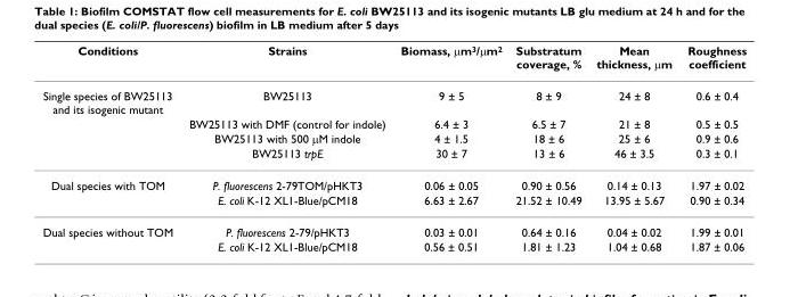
<table><thead><tr><td>Conditions</td><td>Strains</td><td>Biomass, μm<sup>3</sup>/μm<sup>2</sup></td><td>Substratum coverage, %</td><td>Mean thickness, μm</td><td>Roughness coefficient</td></tr></thead><tbody><tr><td rowspan="4">Single species of BW25113 and its isogenic mutant</td><td>BW25113</td><td>9 ± 5</td><td>8 ± 9</td><td>24 ± 8</td><td>0.6 ± 0.4</td></tr><tr><td>BW25113 with DMF (control for indole)</td><td>6.4 ± 3</td><td>6.5 ± 7</td><td>21 ± 8</td><td>0.5 ± 0.5</td></tr><tr><td>BW25113 with 500 μM indole</td><td>4 ± 1.5</td><td>18 ± 6</td><td>25 ± 6</td><td>0.9 ± 0.6</td></tr><tr><td>BW25113 trpE</td><td>30 ± 7</td><td>13 ± 6</td><td>46 ± 3.5</td><td>0.3 ± 0.1</td></tr><tr><td rowspan="2">Dual species with TOM</td><td>P. fluorescens 2-79TOM/pHKT3</td><td>0.06 ± 0.05</td><td>0.90 ± 0.56</td><td>0.14 ± 0.13</td><td>1.97 ± 0.02</td></tr><tr><td>E. coli K-12 XL1-Blue/pCM18</td><td>6.63 ± 2.67</td><td>21.52 ± 10.49</td><td>13.95 ± 5.67</td><td>0.90 ± 0.34</td></tr><tr><td rowspan="2">Dual species without TOM</td><td>P. fluorescens 2-79/pHKT3</td><td>0.03 ± 0.01</td><td>0.64 ± 0.16</td><td>0.04 ± 0.02</td><td>1.99 ± 0.01</td></tr><tr><td>E. coli K-12 XL1-Blue/pCM18</td><td>0.56 ± 0.51</td><td>1.81 ± 1.23</td><td>1.04 ± 0.68</td><td>1.87 ± 0.06</td></tr></tbody></table>